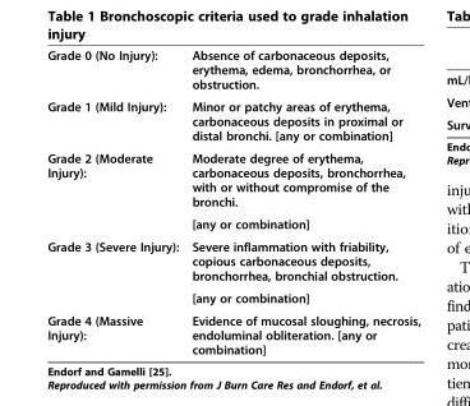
<table><tbody><tr><td>Grade 0 (No Injury):</td><td>Absence of carbonaceous deposits, erythema, edema, bronchorrhea, or obstruction.</td></tr><tr><td>Grade 1 (Mild Injury):</td><td>Minor or patchy areas of erythema, carbonaceous deposits in proximal or distal bronchi. [any or combination]</td></tr><tr><td rowspan="2">Grade 2 (Moderate Injury):</td><td>Moderate degree of erythema, carbonaceous deposits, bronchorrhea, with or without compromise of the bronchi.</td></tr><tr><td>[any or combination]</td></tr><tr><td rowspan="2">Grade 3 (Severe Injury):</td><td>Severe inflammation with friability, copious carbonaceous deposits, bronchorrhea, bronchial obstruction.</td></tr><tr><td>[any or combination]</td></tr><tr><td>Grade 4 (Massive Injury):</td><td>Evidence of mucosal sloughing, necrosis, endoluminal obliteration. [any or combination]</td></tr></tbody></table>